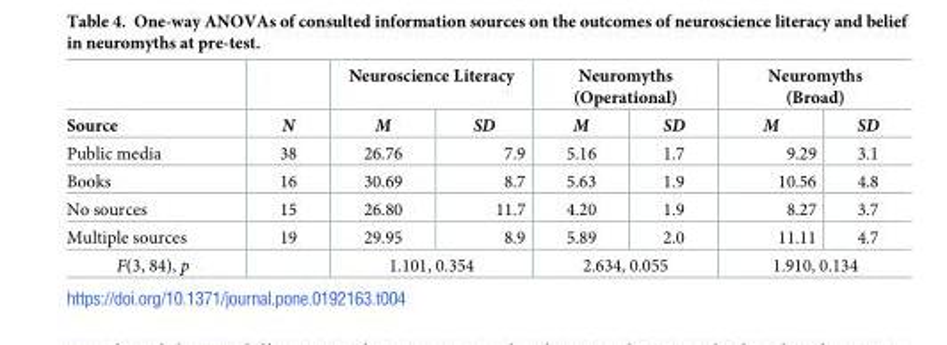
<table><thead><tr><td rowspan="2">Source</td><td rowspan="2">N</td><td colspan="2">Neuroscience Literacy</td><td colspan="2">Neuromyths (Operational)</td><td colspan="2">Neuromyths (Broad)</td></tr><tr><td>M</td><td>SD</td><td>M</td><td>SD</td><td>M</td><td>SD</td></tr></thead><tbody><tr><td>Public media</td><td>38</td><td>26.76</td><td>7.9</td><td>5.16</td><td>1.7</td><td>9.29</td><td>3.1</td></tr><tr><td>Books</td><td>16</td><td>30.69</td><td>8.7</td><td>5.63</td><td>1.9</td><td>10.56</td><td>4.8</td></tr><tr><td>No sources</td><td>15</td><td>26.80</td><td>11.7</td><td>4.20</td><td>1.9</td><td>8.27</td><td>3.7</td></tr><tr><td>Multiple sources</td><td>19</td><td>29.95</td><td>8.9</td><td>5.89</td><td>2.0</td><td>11.11</td><td>4.7</td></tr><tr><td>F(3, 84), p</td><td></td><td colspan="2">1.101, 0.354</td><td colspan="2">2.634, 0.055</td><td colspan="2">1.910, 0.134</td></tr></tbody></table>